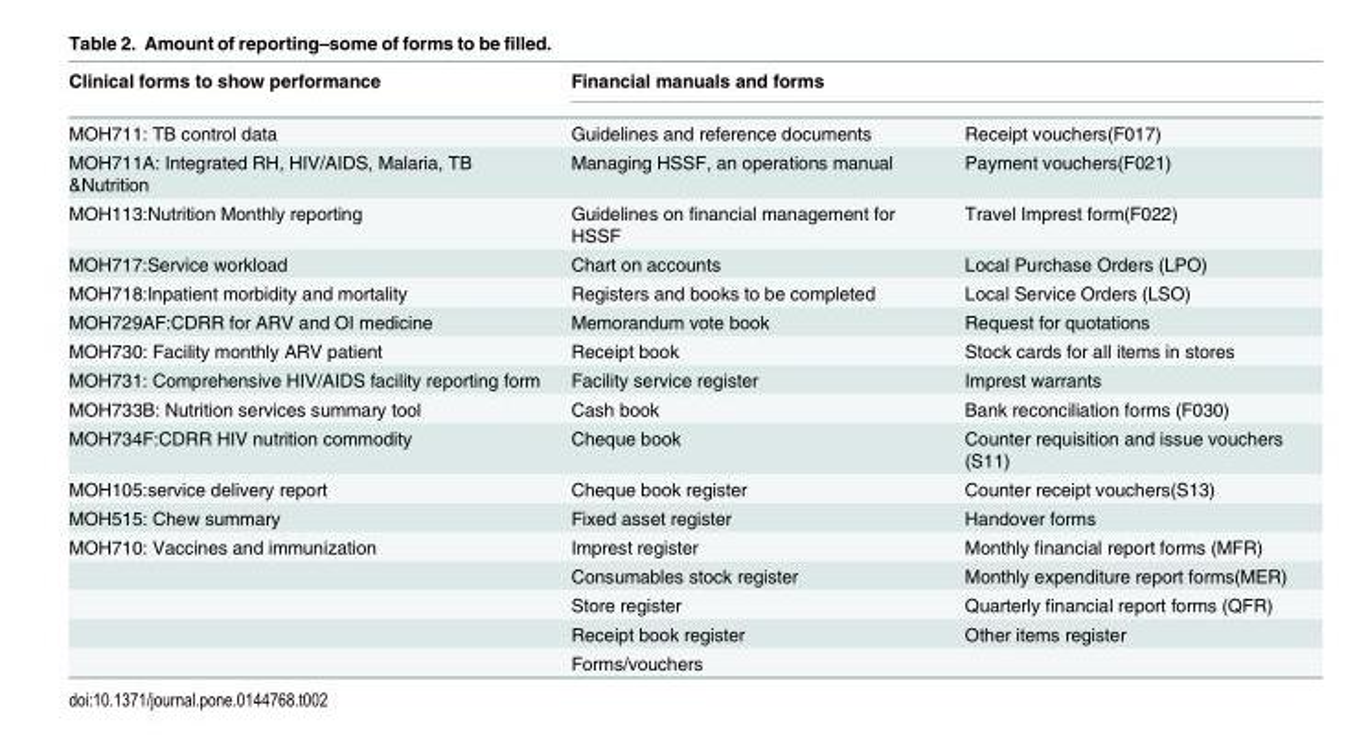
<table><thead><tr><td rowspan="2">Clinical forms to show performance MOH711: TB control data</td><td colspan="2">Financial manuals and forms</td></tr><tr><td>Guidelines and reference documents</td><td>Receipt vouchers(F017)</td></tr></thead><tbody><tr><td>MOH711A: Integrated RH, HIV/AIDS, Malaria, TB &amp;Nutrition</td><td>Managing HSSF, an operations manual</td><td>Payment vouchers(F021)</td></tr><tr><td>MOH113:Nutrition Monthly reporting</td><td>Guidelines on financial management for HSSF</td><td>Travel Imprest form(F022)</td></tr><tr><td>MOH717:Service workload</td><td>Chart on accounts</td><td>Local Purchase Orders (LPO)</td></tr><tr><td>MOH718:Inpatient morbidity and mortality</td><td>Registers and books to be completed</td><td>Local Service Orders (LSO)</td></tr><tr><td>MOH729AF:CDRR for ARV and OI medicine</td><td>Memorandum vote book</td><td>Request for quotations</td></tr><tr><td>MOH730: Facility monthly ARV patient</td><td>Receipt book</td><td>Stock cards for all items in stores</td></tr><tr><td>MOH731: Comprehensive HIV/AIDS facility reporting form</td><td>Facility service register</td><td>Imprest warrants</td></tr><tr><td>MOH733B: Nutrition services summary tool</td><td>Cash book</td><td>Bank reconciliation forms (F030)</td></tr><tr><td>MOH734F:CDRR HIV nutrition commodity</td><td>Cheque book</td><td>Counter requisition and issue vouchers (S11)</td></tr><tr><td>MOH105:service delivery report</td><td>Cheque book register</td><td>Counter receipt vouchers(S13)</td></tr><tr><td>MOH515: Chew summary</td><td>Fixed asset register</td><td>Handover forms</td></tr><tr><td rowspan="5">MOH710: Vaccines and immunization</td><td>Imprest register</td><td>Monthly financial report forms (MFR)</td></tr><tr><td>Consumables stock register</td><td>Monthly expenditure report forms(MER)</td></tr><tr><td>Store register</td><td>Quarterly financial report forms (QFR)</td></tr><tr><td>Receipt book register</td><td>Other items register</td></tr><tr><td>Forms/vouchers</td><td></td></tr></tbody></table>